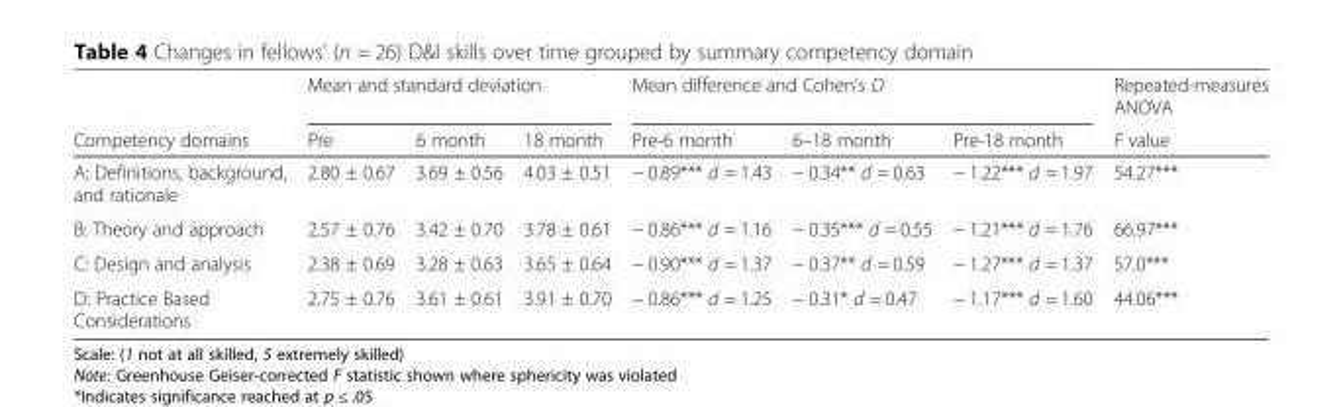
<table><thead><tr><td rowspan="2">Competency domains</td><td colspan="3">Mean and standard deviation</td><td colspan="3">Mean difference and Cohen’s D</td><td rowspan="2">Repeated-measures ANOVA F value</td></tr><tr><td>Pre</td><td>6 month</td><td>18 month</td><td>Pre-6 month</td><td>6–18 month</td><td>Pre-18 month</td></tr></thead><tbody><tr><td>A: Definitions, background, and rationale</td><td>2.80 ± 0.67</td><td>3.69 ± 0.56</td><td>4.03 ± 0.51</td><td>− 0.89*** d = 1.43</td><td>− 0.34** d = 0.63</td><td>− 1.22*** d = 1.97</td><td>54.27***</td></tr><tr><td>B: Theory and approach</td><td>2.57 ± 0.76</td><td>3.42 ± 0.70</td><td>3.78 ± 0.61</td><td>− 0.86*** d = 1.16</td><td>− 0.35*** d = 0.55</td><td>− 1.21*** d = 1.76</td><td>66.97***</td></tr><tr><td>C: Design and analysis</td><td>2.38 ± 0.69</td><td>3.28 ± 0.63</td><td>3.65 ± 0.64</td><td>− 0.90*** d = 1.37</td><td>− 0.37** d = 0.59</td><td>− 1.27*** d = 1.37</td><td>57.0***</td></tr><tr><td>D: Practice Based Considerations</td><td>2.75 ± 0.76</td><td>3.61 ± 0.61</td><td>3.91 ± 0.70</td><td>− 0.86*** d = 1.25</td><td>− 0.31* d = 0.47</td><td>− 1.17*** d = 1.60</td><td>44.06***</td></tr></tbody></table>